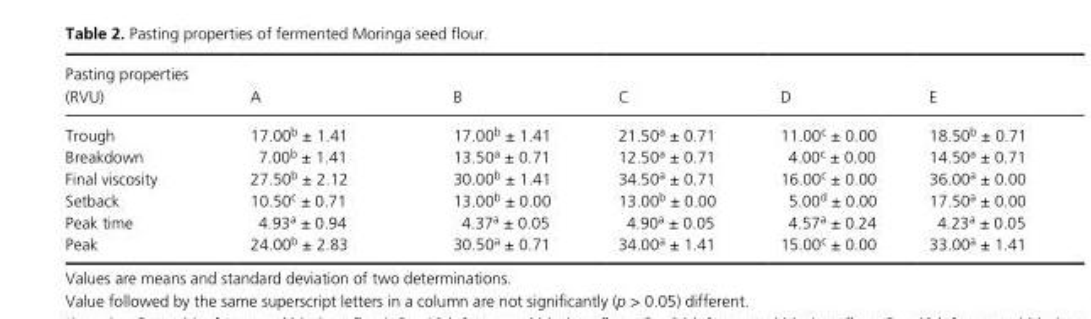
<table><thead><tr><td>Pasting properties (RVU)</td><td>A</td><td>B</td><td>C</td><td>D</td><td>E</td></tr></thead><tbody><tr><td>Trough</td><td>17.00<sup>b</sup> ± 1.41</td><td>17.00<sup>b</sup> ± 1.41</td><td>21.50<sup>a</sup> ± 0.71</td><td>11.00<sup>c</sup> ± 0.00</td><td>18.50<sup>b</sup> ± 0.71</td></tr><tr><td>Breakdown</td><td>7.00<sup>b</sup> ± 1.41</td><td>13.50<sup>a</sup> ± 0.71</td><td>12.50<sup>a</sup> ± 0.71</td><td>4.00<sup>c</sup> ± 0.00</td><td>14.50<sup>a</sup> ± 0.71</td></tr><tr><td>Final viscosity</td><td>27.50<sup>b</sup> ± 2.12</td><td>30.00<sup>b</sup> ± 1.41</td><td>34.50<sup>a</sup> ± 0.71</td><td>16.00<sup>c</sup> ± 0.00</td><td>36.00<sup>a</sup> ± 0.00</td></tr><tr><td>Setback</td><td>10.50<sup>c</sup> ± 0.71</td><td>13.00<sup>b</sup> ± 0.00</td><td>13.00<sup>b</sup> ± 0.00</td><td>5.00<sup>d</sup> ± 0.00</td><td>17.50<sup>a</sup> ± 0.00</td></tr><tr><td>Peak time</td><td>4.93<sup>a</sup> ± 0.94</td><td>4.37<sup>a</sup> ± 0.05</td><td>4.90<sup>a</sup> ± 0.05</td><td>4.57<sup>a</sup> ± 0.24</td><td>4.23<sup>a</sup> ± 0.05</td></tr><tr><td>Peak</td><td>24.00<sup>b</sup> ± 2.83</td><td>30.50<sup>a</sup> ± 0.71</td><td>34.00<sup>a</sup> ± 1.41</td><td>15.00<sup>c</sup> ± 0.00</td><td>33.00<sup>a</sup> ± 1.41</td></tr></tbody></table>